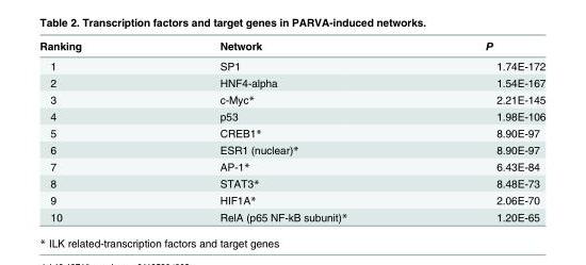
<table><thead><tr><td>Ranking</td><td>Network</td><td>P</td></tr></thead><tbody><tr><td>1</td><td>SP1</td><td>1.74E-172</td></tr><tr><td>2</td><td>HNF4-alpha</td><td>1.54E-167</td></tr><tr><td>3</td><td>c-Myc*</td><td>2.21E-145</td></tr><tr><td>4</td><td>p53</td><td>1.98E-106</td></tr><tr><td>5</td><td>CREB1*</td><td>8.90E-97</td></tr><tr><td>6</td><td>ESR1 (nuclear)*</td><td>8.90E-97</td></tr><tr><td>7</td><td>AP-1*</td><td>6.43E-84</td></tr><tr><td>8</td><td>STAT3*</td><td>8.48E-73</td></tr><tr><td>9</td><td>HIF1A*</td><td>2.06E-70</td></tr><tr><td>10</td><td>RelA (p65 NF-kB subunit)*</td><td>1.20E-65</td></tr></tbody></table>